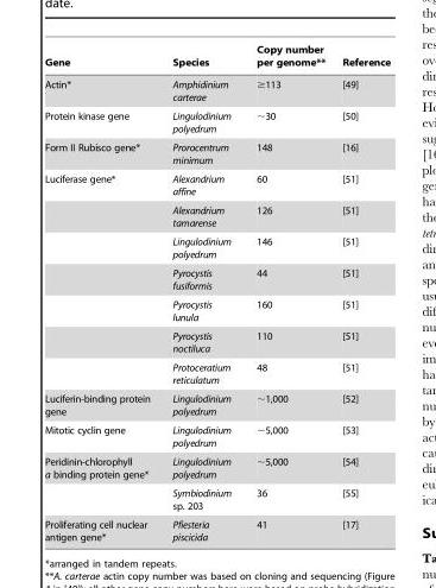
<table><thead><tr><td>Gene</td><td>Species</td><td>Copy number per genome**</td><td>Reference</td></tr></thead><tbody><tr><td>Actin*</td><td>Amphidinium carterae</td><td>≥113</td><td>[49]</td></tr><tr><td>Protein kinase gene</td><td>Lingulodinium polyedrum</td><td>∼30</td><td>[50]</td></tr><tr><td>Form II Rubisco gene*</td><td>Prorocentrum minimum</td><td>148</td><td>[16]</td></tr><tr><td rowspan="7">Luciferase gene*</td><td>Alexandrium affine</td><td>60</td><td>[51]</td></tr><tr><td>Alexandrium tamarense</td><td>126</td><td>[51]</td></tr><tr><td>Lingulodinium polyedrum</td><td>146</td><td>[51]</td></tr><tr><td>Pyrocystis fusiformis</td><td>44</td><td>[51]</td></tr><tr><td>Pyrocystis lunula</td><td>160</td><td>[51]</td></tr><tr><td>Pyrocystis noctiluca</td><td>110</td><td>[51]</td></tr><tr><td>Protoceratium reticulatum</td><td>48</td><td>[51]</td></tr><tr><td>Luciferin-binding protein gene</td><td>Lingulodinium polyedrum</td><td>∼1,000</td><td>[52]</td></tr><tr><td>Mitotic cyclin gene</td><td>Lingulodinium polyedrum</td><td>∼5,000</td><td>[53]</td></tr><tr><td rowspan="2">Peridinin-chlorophyll a binding protein gene*</td><td>Lingulodinium polyedrum</td><td>∼5,000</td><td>[54]</td></tr><tr><td>Symbiodinium sp. 203</td><td>36</td><td>[55]</td></tr><tr><td>Proliferating cell nuclear antigen gene*</td><td>Pfiesteria piscicida</td><td>41</td><td>[17]</td></tr></tbody></table>